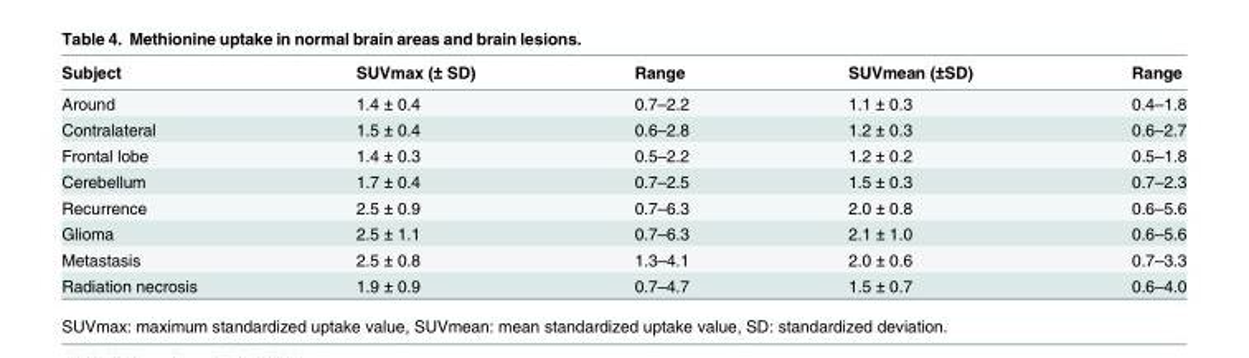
<table><thead><tr><td>Subject</td><td>SUVmax (± SD)</td><td>Range</td><td>SUVmean (±SD)</td><td>Range</td></tr></thead><tbody><tr><td>Around</td><td>1.4 ± 0.4</td><td>0.7–2.2</td><td>1.1 ± 0.3</td><td>0.4–1.8</td></tr><tr><td>Contralateral</td><td>1.5 ± 0.4</td><td>0.6–2.8</td><td>1.2 ± 0.3</td><td>0.6–2.7</td></tr><tr><td>Frontal lobe</td><td>1.4 ± 0.3</td><td>0.5–2.2</td><td>1.2 ± 0.2</td><td>0.5–1.8</td></tr><tr><td>Cerebellum</td><td>1.7 ± 0.4</td><td>0.7–2.5</td><td>1.5 ± 0.3</td><td>0.7–2.3</td></tr><tr><td>Recurrence</td><td>2.5 ± 0.9</td><td>0.7–6.3</td><td>2.0 ± 0.8</td><td>0.6–5.6</td></tr><tr><td>Glioma</td><td>2.5 ± 1.1</td><td>0.7–6.3</td><td>2.1 ± 1.0</td><td>0.6–5.6</td></tr><tr><td>Metastasis</td><td>2.5 ± 0.8</td><td>1.3–4.1</td><td>2.0 ± 0.6</td><td>0.7–3.3</td></tr><tr><td>Radiation necrosis</td><td>1.9 ± 0.9</td><td>0.7–4.7</td><td>1.5 ± 0.7</td><td>0.6–4.0</td></tr></tbody></table>